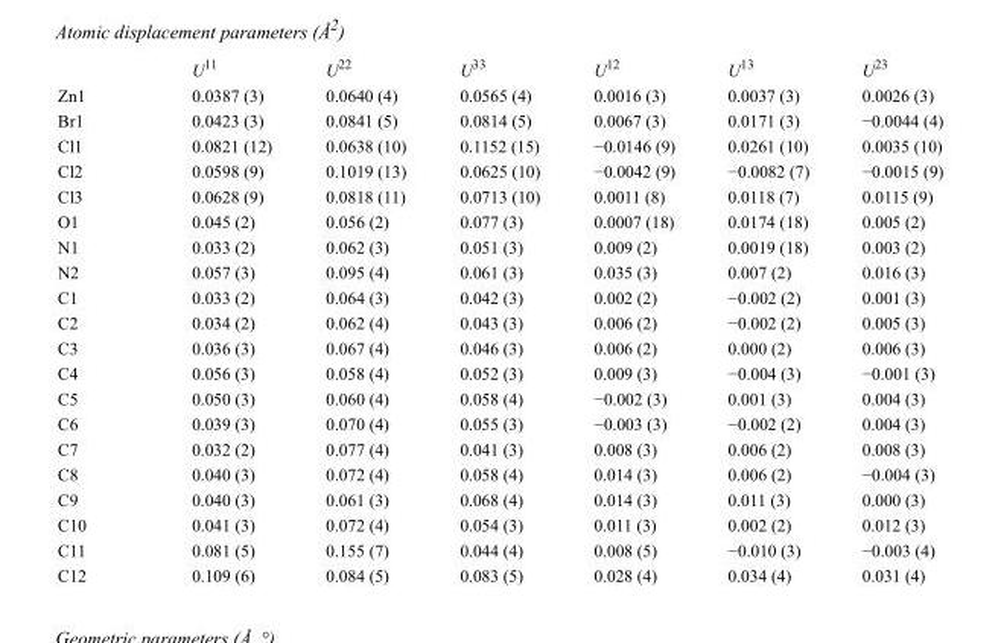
<table><thead><tr><td></td><td>U<sup>11</sup></td><td>U<sup>22</sup></td><td>U<sup>33</sup></td><td>U<sup>12</sup></td><td>U<sup>13</sup></td><td>U<sup>23</sup></td></tr></thead><tbody><tr><td>Zn1</td><td>0.0387 (3)</td><td>0.0640 (4)</td><td>0.0565 (4)</td><td>0.0016 (3)</td><td>0.0037 (3)</td><td>0.0026 (3)</td></tr><tr><td>Br1</td><td>0.0423 (3)</td><td>0.0841 (5)</td><td>0.0814 (5)</td><td>0.0067 (3)</td><td>0.0171 (3)</td><td>−0.0044 (4)</td></tr><tr><td>Cl1</td><td>0.0821 (12)</td><td>0.0638 (10)</td><td>0.1152 (15)</td><td>−0.0146 (9)</td><td>0.0261 (10)</td><td>0.0035 (10)</td></tr><tr><td>Cl2</td><td>0.0598 (9)</td><td>0.1019 (13)</td><td>0.0625 (10)</td><td>−0.0042 (9)</td><td>−0.0082 (7)</td><td>−0.0015 (9)</td></tr><tr><td>Cl3</td><td>0.0628 (9)</td><td>0.0818 (11)</td><td>0.0713 (10)</td><td>0.0011 (8)</td><td>0.0118 (7)</td><td>0.0115 (9)</td></tr><tr><td>O1</td><td>0.045 (2)</td><td>0.056 (2)</td><td>0.077 (3)</td><td>0.0007 (18)</td><td>0.0174 (18)</td><td>0.005 (2)</td></tr><tr><td>N1</td><td>0.033 (2)</td><td>0.062 (3)</td><td>0.051 (3)</td><td>0.009 (2)</td><td>0.0019 (18)</td><td>0.003 (2)</td></tr><tr><td>N2</td><td>0.057 (3)</td><td>0.095 (4)</td><td>0.061 (3)</td><td>0.035 (3)</td><td>0.007 (2)</td><td>0.016 (3)</td></tr><tr><td>C1</td><td>0.033 (2)</td><td>0.064 (3)</td><td>0.042 (3)</td><td>0.002 (2)</td><td>−0.002 (2)</td><td>0.001 (3)</td></tr><tr><td>C2</td><td>0.034 (2)</td><td>0.062 (4)</td><td>0.043 (3)</td><td>0.006 (2)</td><td>−0.002 (2)</td><td>0.005 (3)</td></tr><tr><td>C3</td><td>0.036 (3)</td><td>0.067 (4)</td><td>0.046 (3)</td><td>0.006 (2)</td><td>0.000 (2)</td><td>0.006 (3)</td></tr><tr><td>C4</td><td>0.056 (3)</td><td>0.058 (4)</td><td>0.052 (3)</td><td>0.009 (3)</td><td>−0.004 (3)</td><td>−0.001 (3)</td></tr><tr><td>C5</td><td>0.050 (3)</td><td>0.060 (4)</td><td>0.058 (4)</td><td>−0.002 (3)</td><td>0.001 (3)</td><td>0.004 (3)</td></tr><tr><td>C6</td><td>0.039 (3)</td><td>0.070 (4)</td><td>0.055 (3)</td><td>−0.003 (3)</td><td>−0.002 (2)</td><td>0.004 (3)</td></tr><tr><td>C7</td><td>0.032 (2)</td><td>0.077 (4)</td><td>0.041 (3)</td><td>0.008 (3)</td><td>0.006 (2)</td><td>0.008 (3)</td></tr><tr><td>C8</td><td>0.040 (3)</td><td>0.072 (4)</td><td>0.058 (4)</td><td>0.014 (3)</td><td>0.006 (2)</td><td>−0.004 (3)</td></tr><tr><td>C9</td><td>0.040 (3)</td><td>0.061 (3)</td><td>0.068 (4)</td><td>0.014 (3)</td><td>0.011 (3)</td><td>0.000 (3)</td></tr><tr><td>C10</td><td>0.041 (3)</td><td>0.072 (4)</td><td>0.054 (3)</td><td>0.011 (3)</td><td>0.002 (2)</td><td>0.012 (3)</td></tr><tr><td>C11</td><td>0.081 (5)</td><td>0.155 (7)</td><td>0.044 (4)</td><td>0.008 (5)</td><td>−0.010 (3)</td><td>−0.003 (4)</td></tr><tr><td>C12</td><td>0.109 (6)</td><td>0.084 (5)</td><td>0.083 (5)</td><td>0.028 (4)</td><td>0.034 (4)</td><td>0.031 (4)</td></tr></tbody></table>